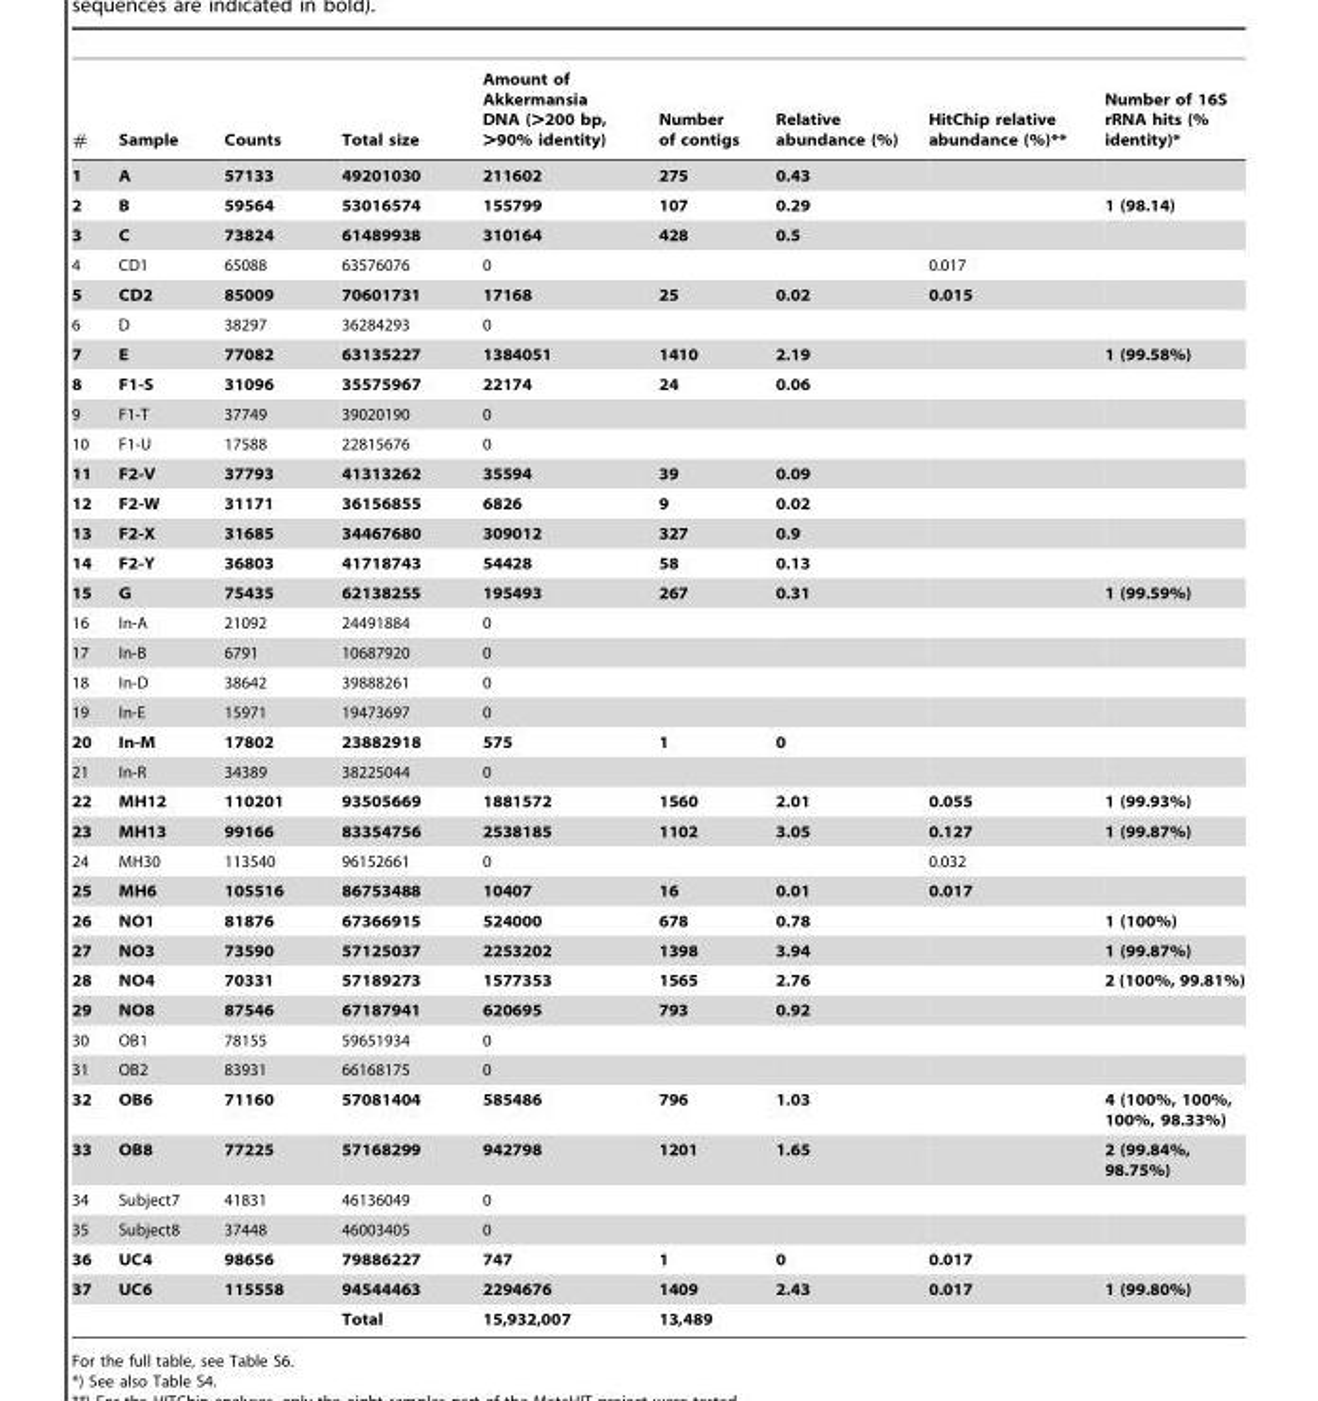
<table><thead><tr><td>#</td><td>Sample</td><td>Counts</td><td>Total size</td><td>Amount of Akkermansia DNA (&gt;200 bp, &gt;90% identity)</td><td>Number of contigs</td><td>Relative abundance (%)</td><td>HitChip relative abundance (%)**</td><td>Number of 16S rRNA hits (% identity)*</td></tr></thead><tbody><tr><td>1</td><td>A</td><td>57133</td><td>49201030</td><td>211602</td><td>275</td><td>0.43</td><td></td><td></td></tr><tr><td>2</td><td>B</td><td>59564</td><td>53016574</td><td>155799</td><td>107</td><td>0.29</td><td></td><td>1 (98.14)</td></tr><tr><td>3</td><td>C</td><td>73824</td><td>61489938</td><td>310164</td><td>428</td><td>0.5</td><td></td><td></td></tr><tr><td>4</td><td>CD1</td><td>65088</td><td>63576076</td><td>0</td><td></td><td></td><td>0.017</td><td></td></tr><tr><td>5</td><td>CD2</td><td>85009</td><td>70601731</td><td>17168</td><td>25</td><td>0.02</td><td>0.015</td><td></td></tr><tr><td>6</td><td>D</td><td>38297</td><td>36284293</td><td>0</td><td></td><td></td><td></td><td></td></tr><tr><td>7</td><td>E</td><td>77082</td><td>63135227</td><td>1384051</td><td>1410</td><td>2.19</td><td></td><td>1 (99.58%)</td></tr><tr><td>8</td><td>F1-S</td><td>31096</td><td>35575967</td><td>22174</td><td>24</td><td>0.06</td><td></td><td></td></tr><tr><td>9</td><td>F1-T</td><td>37749</td><td>39020190</td><td>0</td><td></td><td></td><td></td><td></td></tr><tr><td>10</td><td>F1-U</td><td>17588</td><td>22815676</td><td>0</td><td></td><td></td><td></td><td></td></tr><tr><td>11</td><td>F2-V</td><td>37793</td><td>41313262</td><td>35594</td><td>39</td><td>0.09</td><td></td><td></td></tr><tr><td>12</td><td>F2-W</td><td>31171</td><td>36156855</td><td>6826</td><td>9</td><td>0.02</td><td></td><td></td></tr><tr><td>13</td><td>F2-X</td><td>31685</td><td>34467680</td><td>309012</td><td>327</td><td>0.9</td><td></td><td></td></tr><tr><td>14</td><td>F2-Y</td><td>36803</td><td>41718743</td><td>54428</td><td>58</td><td>0.13</td><td></td><td></td></tr><tr><td>15</td><td>G</td><td>75435</td><td>62138255</td><td>195493</td><td>267</td><td>0.31</td><td></td><td>1 (99.59%)</td></tr><tr><td>16</td><td>In-A</td><td>21092</td><td>24491884</td><td>0</td><td></td><td></td><td></td><td></td></tr><tr><td>17</td><td>In-B</td><td>6791</td><td>10687920</td><td>0</td><td></td><td></td><td></td><td></td></tr><tr><td>18</td><td>In-D</td><td>38642</td><td>39888261</td><td>0</td><td></td><td></td><td></td><td></td></tr><tr><td>19</td><td>In-E</td><td>15971</td><td>19473697</td><td>0</td><td></td><td></td><td></td><td></td></tr><tr><td>20</td><td>In-M</td><td>17802</td><td>23882918</td><td>575</td><td>1</td><td>0</td><td></td><td></td></tr><tr><td>21</td><td>In-R</td><td>34389</td><td>38225044</td><td>0</td><td></td><td></td><td></td><td></td></tr><tr><td>22</td><td>MH12</td><td>110201</td><td>93505669</td><td>1881572</td><td>1560</td><td>2.01</td><td>0.055</td><td>1 (99.93%)</td></tr><tr><td>23</td><td>MH13</td><td>99166</td><td>83354756</td><td>2538185</td><td>1102</td><td>3.05</td><td>0.127</td><td>1 (99.87%)</td></tr><tr><td>24</td><td>MH30</td><td>113540</td><td>96152661</td><td>0</td><td></td><td></td><td>0.032</td><td></td></tr><tr><td>25</td><td>MH6</td><td>105516</td><td>86753488</td><td>10407</td><td>16</td><td>0.01</td><td>0.017</td><td></td></tr><tr><td>26</td><td>NO1</td><td>81876</td><td>67366915</td><td>524000</td><td>678</td><td>0.78</td><td></td><td>1 (100%)</td></tr><tr><td>27</td><td>NO3</td><td>73590</td><td>57125037</td><td>2253202</td><td>1398</td><td>3.94</td><td></td><td>1 (99.87%)</td></tr><tr><td>28</td><td>NO4</td><td>70331</td><td>57189273</td><td>1577353</td><td>1565</td><td>2.76</td><td></td><td>2 (100%, 99.81%)</td></tr><tr><td>29</td><td>NO8</td><td>87546</td><td>67187941</td><td>620695</td><td>793</td><td>0.92</td><td></td><td></td></tr><tr><td>30</td><td>OB1</td><td>78155</td><td>59651934</td><td>0</td><td></td><td></td><td></td><td></td></tr><tr><td>31</td><td>OB2</td><td>83931</td><td>66168175</td><td>0</td><td></td><td></td><td></td><td></td></tr><tr><td>32</td><td>OB6</td><td>71160</td><td>57081404</td><td>585486</td><td>796</td><td>1.03</td><td></td><td>4 (100%, 100%, 100%, 98.33%)</td></tr><tr><td>33</td><td>OB8</td><td>77225</td><td>57168299</td><td>942798</td><td>1201</td><td>1.65</td><td></td><td>2 (99.84%, 98.75%)</td></tr><tr><td>34</td><td>Subject7</td><td>41831</td><td>46136049</td><td>0</td><td></td><td></td><td></td><td></td></tr><tr><td>35</td><td>Subject8</td><td>37448</td><td>46003405</td><td>0</td><td></td><td></td><td></td><td></td></tr><tr><td>36</td><td>UC4</td><td>98656</td><td>79886227</td><td>747</td><td>1</td><td>0</td><td>0.017</td><td></td></tr><tr><td rowspan="2">37</td><td>UC6</td><td>115558</td><td>94544463</td><td>2294676</td><td>1409</td><td>2.43</td><td>0.017</td><td>1 (99.80%)</td></tr><tr><td></td><td></td><td>Total</td><td>15,932,007</td><td>13,489</td><td></td><td></td><td></td></tr></tbody></table>